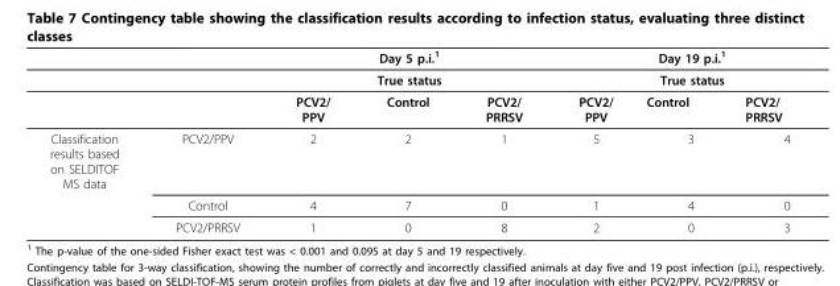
<table><thead><tr><td rowspan="3"></td><td rowspan="3"></td><td rowspan="2" colspan="3">Day 5 p.i.1 True status</td><td rowspan="2" colspan="3">Day 19 p.i.1 True status</td></tr><tr></tr><tr><td>PCV2/ PPV</td><td>Control</td><td>PCV2/ PRRSV</td><td>PCV2/ PPV</td><td>Control</td><td>PCV2/ PRRSV</td></tr></thead><tbody><tr><td rowspan="3">Classification results based on SELDITOF MS data</td><td>PCV2/PPV</td><td>2</td><td>2</td><td>1</td><td>5</td><td>3</td><td>4</td></tr><tr><td>Control</td><td>4</td><td>7</td><td>0</td><td>1</td><td>4</td><td>0</td></tr><tr><td>PCV2/PRRSV</td><td>1</td><td>0</td><td>8</td><td>2</td><td>0</td><td>3</td></tr></tbody></table>